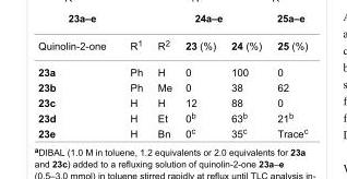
<table><tbody><tr><td>Quinolin-2-one</td><td>R<sup>1</sup></td><td>R<sup>2</sup></td><td>23 (%)</td><td>24 (%)</td><td>25 (%)</td></tr><tr><td>23a</td><td>Ph</td><td>H</td><td>0</td><td>100</td><td>0</td></tr><tr><td>23b</td><td>Ph</td><td>Me</td><td>0</td><td>38</td><td>62</td></tr><tr><td>23c</td><td>H</td><td>H</td><td>12</td><td>88</td><td>0</td></tr><tr><td>23d</td><td>H</td><td>Et</td><td>0<sup>b</sup></td><td>63<sup>b</sup></td><td>21<sup>b</sup></td></tr><tr><td>23e</td><td>H</td><td>Bn</td><td>0<sup>c</sup></td><td>35<sup>c</sup></td><td>Trace<sup>c</sup></td></tr></tbody></table>